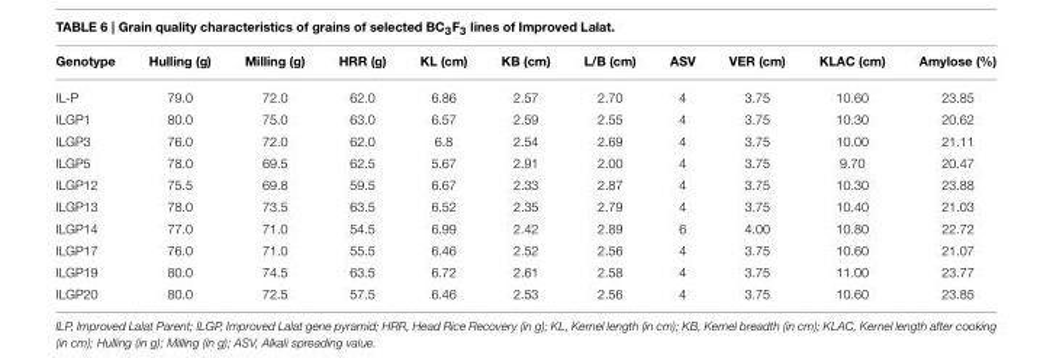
<table><thead><tr><td>Genotype</td><td>Hulling (g)</td><td>Milling (g)</td><td>HRR (g)</td><td>KL (cm)</td><td>KB (cm)</td><td>L/B (cm)</td><td>ASV</td><td>VER (cm)</td><td>KLAC (cm)</td><td>Amylose (%)</td></tr></thead><tbody><tr><td>IL-P</td><td>79.0</td><td>72.0</td><td>62.0</td><td>6.86</td><td>2.57</td><td>2.70</td><td>4</td><td>3.75</td><td>10.60</td><td>23.85</td></tr><tr><td>ILGP1</td><td>80.0</td><td>75.0</td><td>63.0</td><td>6.57</td><td>2.59</td><td>2.55</td><td>4</td><td>3.75</td><td>10.30</td><td>20.62</td></tr><tr><td>ILGP3</td><td>76.0</td><td>72.0</td><td>62.0</td><td>6.8</td><td>2.54</td><td>2.69</td><td>4</td><td>3.75</td><td>10.00</td><td>21.11</td></tr><tr><td>ILGP5</td><td>78.0</td><td>69.5</td><td>62.5</td><td>5.67</td><td>2.91</td><td>2.00</td><td>4</td><td>3.75</td><td>9.70</td><td>20.47</td></tr><tr><td>ILGP12</td><td>75.5</td><td>69.8</td><td>59.5</td><td>6.67</td><td>2.33</td><td>2.87</td><td>4</td><td>3.75</td><td>10.30</td><td>23.88</td></tr><tr><td>ILGP13</td><td>78.0</td><td>73.5</td><td>63.5</td><td>6.52</td><td>2.35</td><td>2.79</td><td>4</td><td>3.75</td><td>10.40</td><td>21.03</td></tr><tr><td>ILGP14</td><td>77.0</td><td>71.0</td><td>54.5</td><td>6.99</td><td>2.42</td><td>2.89</td><td>6</td><td>4.00</td><td>10.80</td><td>22.72</td></tr><tr><td>ILGP17</td><td>76.0</td><td>71.0</td><td>55.5</td><td>6.46</td><td>2.52</td><td>2.56</td><td>4</td><td>3.75</td><td>10.60</td><td>21.07</td></tr><tr><td>ILGP19</td><td>80.0</td><td>74.5</td><td>63.5</td><td>6.72</td><td>2.61</td><td>2.58</td><td>4</td><td>3.75</td><td>11.00</td><td>23.77</td></tr><tr><td>ILGP20</td><td>80.0</td><td>72.5</td><td>57.5</td><td>6.46</td><td>2.53</td><td>2.56</td><td>4</td><td>3.75</td><td>10.60</td><td>23.85</td></tr></tbody></table>